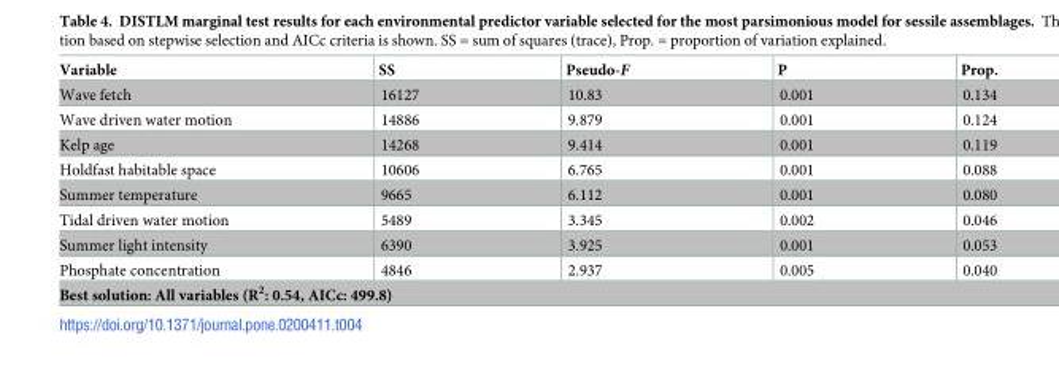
<table><thead><tr><td>Variable</td><td>SS</td><td>Pseudo-F</td><td>P</td><td>Prop.</td></tr></thead><tbody><tr><td>Wave fetch</td><td>16127</td><td>10.83</td><td>0.001</td><td>0.134</td></tr><tr><td>Wave driven water motion</td><td>14886</td><td>9.879</td><td>0.001</td><td>0.124</td></tr><tr><td>Kelp age</td><td>14268</td><td>9.414</td><td>0.001</td><td>0.119</td></tr><tr><td>Holdfast habitable space</td><td>10606</td><td>6.765</td><td>0.001</td><td>0.088</td></tr><tr><td>Summer temperature</td><td>9665</td><td>6.112</td><td>0.001</td><td>0.080</td></tr><tr><td>Tidal driven water motion</td><td>5489</td><td>3.345</td><td>0.002</td><td>0.046</td></tr><tr><td>Summer light intensity</td><td>6390</td><td>3.925</td><td>0.001</td><td>0.053</td></tr><tr><td>Phosphate concentration</td><td>4846</td><td>2.937</td><td>0.005</td><td>0.040</td></tr><tr><td colspan="5">Best solution: All variables (R<sup>2</sup>: 0.54, AICc: 499.8)</td></tr></tbody></table>